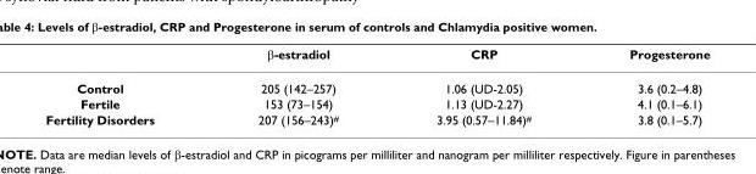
<table><thead><tr><td></td><td>β-estradiol</td><td>CRP</td><td>Progesterone</td></tr></thead><tbody><tr><td>Control</td><td>205 (142–257)</td><td>1.06 (UD-2.05)</td><td>3.6 (0.2–4.8)</td></tr><tr><td>Fertile</td><td>153 (73–154)</td><td>1.13 (UD-2.27)</td><td>4.1 (0.1–6.1)</td></tr><tr><td>Fertility Disorders</td><td>207 (156–243)<sup>#</sup></td><td>3.95 (0.57–11.84)<sup>#</sup></td><td>3.8 (0.1–5.7)</td></tr></tbody></table>